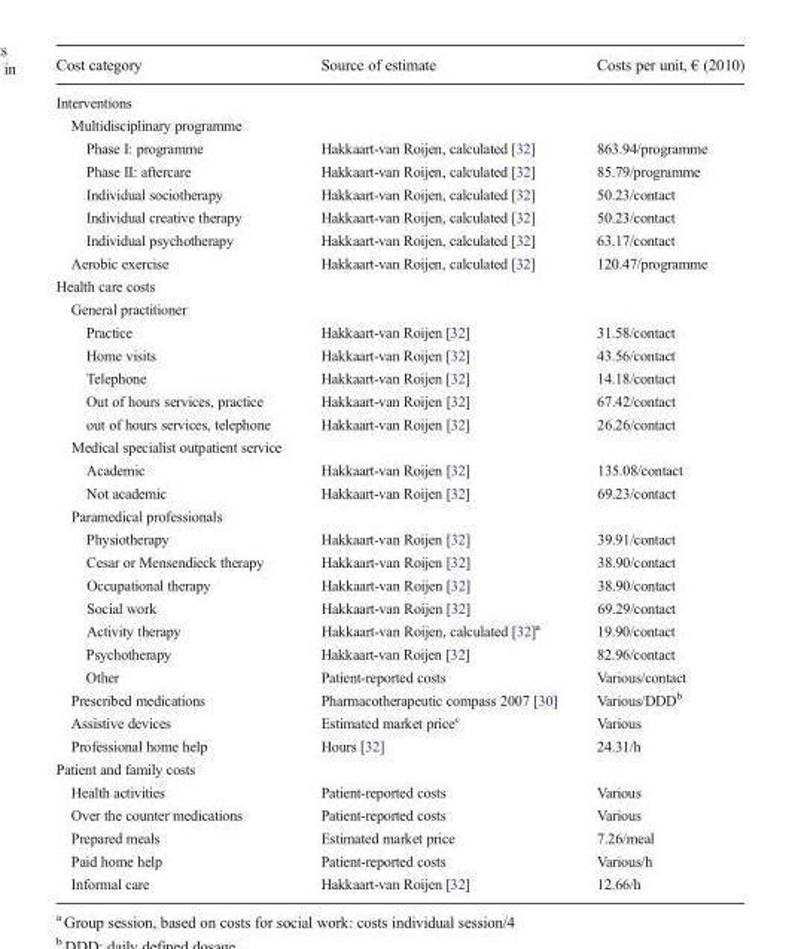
<table><thead><tr><td>Cost category</td><td>Source of estimate</td><td>Costs per unit, € (2010)</td></tr></thead><tbody><tr><td colspan="3">Interventions</td></tr><tr><td colspan="3">Multidisciplinary programme</td></tr><tr><td>Phase I: programme</td><td>Hakkaart-van Roijen, calculated [32]</td><td>863.94/programme</td></tr><tr><td>Phase II: aftercare</td><td>Hakkaart-van Roijen, calculated [32]</td><td>85.79/programme</td></tr><tr><td>Individual sociotherapy</td><td>Hakkaart-van Roijen, calculated [32]</td><td>50.23/contact</td></tr><tr><td>Individual creative therapy</td><td>Hakkaart-van Roijen, calculated [32]</td><td>50.23/contact</td></tr><tr><td>Individual psychotherapy</td><td>Hakkaart-van Roijen, calculated [32]</td><td>63.17/contact</td></tr><tr><td>Aerobic exercise</td><td>Hakkaart-van Roijen, calculated [32]</td><td>120.47/programme</td></tr><tr><td colspan="3">Health care costs</td></tr><tr><td colspan="3">General practitioner</td></tr><tr><td>Practice</td><td>Hakkaart-van Roijen [32]</td><td>31.58/contact</td></tr><tr><td>Home visits</td><td>Hakkaart-van Roijen [32]</td><td>43.56/contact</td></tr><tr><td>Telephone</td><td>Hakkaart-van Roijen [32]</td><td>14.18/contact</td></tr><tr><td>Out of hours services, practice</td><td>Hakkaart-van Roijen [32]</td><td>67.42/contact</td></tr><tr><td>out of hours services, telephone</td><td>Hakkaart-van Roijen [32]</td><td>26.26/contact</td></tr><tr><td colspan="3">Medical specialist outpatient service</td></tr><tr><td>Academic</td><td>Hakkaart-van Roijen [32]</td><td>135.08/contact</td></tr><tr><td>Not academic</td><td>Hakkaart-van Roijen [32]</td><td>69.23/contact</td></tr><tr><td colspan="3">Paramedical professionals</td></tr><tr><td>Physiotherapy</td><td>Hakkaart-van Roijen [32]</td><td>39.91/contact</td></tr><tr><td>Cesar or Mensendieck therapy</td><td>Hakkaart-van Roijen [32]</td><td>38.90/contact</td></tr><tr><td>Occupational therapy</td><td>Hakkaart-van Roijen [32]</td><td>38.90/contact</td></tr><tr><td>Social work</td><td>Hakkaart-van Roijen [32]</td><td>69.29/contact</td></tr><tr><td>Activity therapy</td><td>Hakkaart-van Roijen, calculated [32]<sup>a</sup></td><td>19.90/contact</td></tr><tr><td>Psychotherapy</td><td>Hakkaart-van Roijen [32]</td><td>82.96/contact</td></tr><tr><td>Other</td><td>Patient-reported costs</td><td>Various/contact</td></tr><tr><td>Prescribed medications</td><td>Pharmacotherapeutic compass 2007 [30]</td><td>Various/DDD<sup>b</sup></td></tr><tr><td>Assistive devices</td><td>Estimated market price<sup>c</sup></td><td>Various</td></tr><tr><td>Professional home help</td><td>Hours [32]</td><td>24.31/h</td></tr><tr><td colspan="3">Patient and family costs</td></tr><tr><td>Health activities</td><td>Patient-reported costs</td><td>Various</td></tr><tr><td>Over the counter medications</td><td>Patient-reported costs</td><td>Various</td></tr><tr><td>Prepared meals</td><td>Estimated market price</td><td>7.26/meal</td></tr><tr><td>Paid home help</td><td>Patient-reported costs</td><td>Various/h</td></tr><tr><td>Informal care</td><td>Hakkaart-van Roijen [32]</td><td>12.66/h</td></tr></tbody></table>